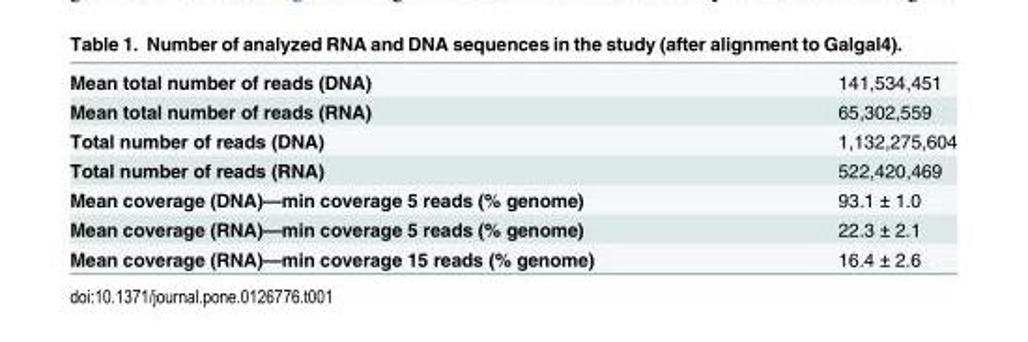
<table><tbody><tr><td>Mean total number of reads (DNA)</td><td>141,534,451</td></tr><tr><td>Mean total number of reads (RNA)</td><td>65,302,559</td></tr><tr><td>Total number of reads (DNA)</td><td>1,132,275,604</td></tr><tr><td>Total number of reads (RNA)</td><td>522,420,469</td></tr><tr><td>Mean coverage (DNA)—min coverage 5 reads (% genome)</td><td>93.1 ± 1.0</td></tr><tr><td>Mean coverage (RNA)—min coverage 5 reads (% genome)</td><td>22.3 ± 2.1</td></tr><tr><td>Mean coverage (RNA)—min coverage 15 reads (% genome)</td><td>16.4 ± 2.6</td></tr></tbody></table>